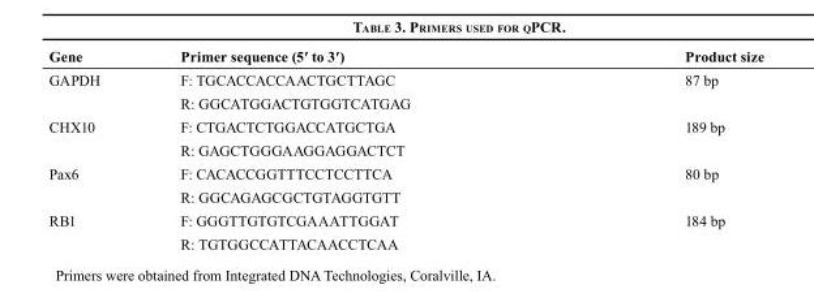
<table><thead><tr><td>Gene</td><td>Primer sequence (5′ to 3′)</td><td>Product size</td></tr></thead><tbody><tr><td rowspan="2">GAPDH</td><td>F: TGCACCACCAACTGCTTAGC</td><td>87 bp</td></tr><tr><td>R: GGCATGGACTGTGGTCATGAG</td><td></td></tr><tr><td rowspan="2">CHX10</td><td>F: CTGACTCTGGACCATGCTGA</td><td>189 bp</td></tr><tr><td>R: GAGCTGGGAAGGAGGACTCT</td><td></td></tr><tr><td rowspan="2">Pax6</td><td>F: CACACCGGTTTCCTCCTTCA</td><td>80 bp</td></tr><tr><td>R: GGCAGAGCGCTGTAGGTGTT</td><td></td></tr><tr><td rowspan="2">RB1</td><td>F: GGGTTGTGTCGAAATTGGAT</td><td>184 bp</td></tr><tr><td>R: TGTGGCCATTACAACCTCAA</td><td></td></tr></tbody></table>